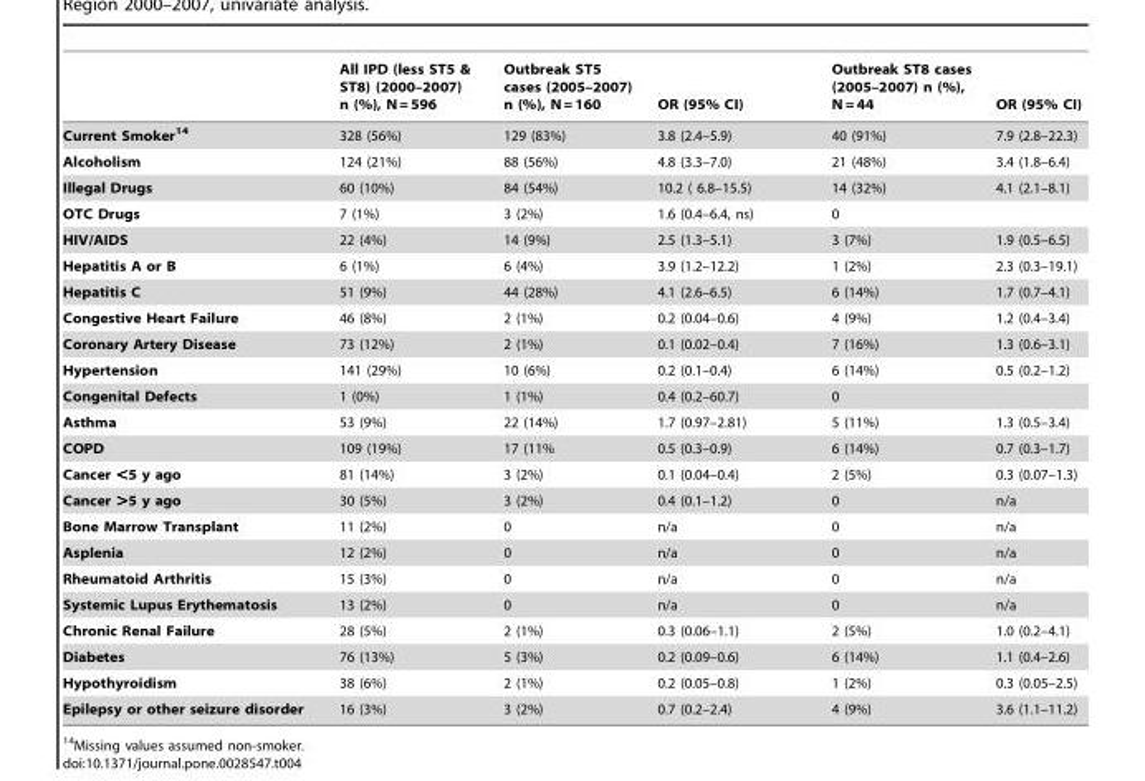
<table><thead><tr><td></td><td>All IPD (less ST5 &amp; ST8) (2000–2007) n (%), N = 596</td><td>Outbreak ST5 cases (2005–2007) n (%), N = 160</td><td>OR (95% CI)</td><td>Outbreak ST8 cases (2005–2007) n (%), N = 44</td><td>OR (95% CI)</td></tr></thead><tbody><tr><td>Current Smoker14</td><td>328 (56%)</td><td>129 (83%)</td><td>3.8 (2.4–5.9)</td><td>40 (91%)</td><td>7.9 (2.8–22.3)</td></tr><tr><td>Alcoholism</td><td>124 (21%)</td><td>88 (56%)</td><td>4.8 (3.3–7.0)</td><td>21 (48%)</td><td>3.4 (1.8–6.4)</td></tr><tr><td>Illegal Drugs</td><td>60 (10%)</td><td>84 (54%)</td><td>10.2 ( 6.8–15.5)</td><td>14 (32%)</td><td>4.1 (2.1–8.1)</td></tr><tr><td>OTC Drugs</td><td>7 (1%)</td><td>3 (2%)</td><td>1.6 (0.4–6.4, ns)</td><td>0</td><td></td></tr><tr><td>HIV/AIDS</td><td>22 (4%)</td><td>14 (9%)</td><td>2.5 (1.3–5.1)</td><td>3 (7%)</td><td>1.9 (0.5–6.5)</td></tr><tr><td>Hepatitis A or B</td><td>6 (1%)</td><td>6 (4%)</td><td>3.9 (1.2–12.2)</td><td>1 (2%)</td><td>2.3 (0.3–19.1)</td></tr><tr><td>Hepatitis C</td><td>51 (9%)</td><td>44 (28%)</td><td>4.1 (2.6–6.5)</td><td>6 (14%)</td><td>1.7 (0.7–4.1)</td></tr><tr><td>Congestive Heart Failure</td><td>46 (8%)</td><td>2 (1%)</td><td>0.2 (0.04–0.6)</td><td>4 (9%)</td><td>1.2 (0.4–3.4)</td></tr><tr><td>Coronary Artery Disease</td><td>73 (12%)</td><td>2 (1%)</td><td>0.1 (0.02–0.4)</td><td>7 (16%)</td><td>1.3 (0.6–3.1)</td></tr><tr><td>Hypertension</td><td>141 (29%)</td><td>10 (6%)</td><td>0.2 (0.1–0.4)</td><td>6 (14%)</td><td>0.5 (0.2–1.2)</td></tr><tr><td>Congenital Defects</td><td>1 (0%)</td><td>1 (1%)</td><td>0.4 (0.2–60.7)</td><td>0</td><td></td></tr><tr><td>Asthma</td><td>53 (9%)</td><td>22 (14%)</td><td>1.7 (0.97–2.81)</td><td>5 (11%)</td><td>1.3 (0.5–3.4)</td></tr><tr><td>COPD</td><td>109 (19%)</td><td>17 (11%</td><td>0.5 (0.3–0.9)</td><td>6 (14%)</td><td>0.7 (0.3–1.7)</td></tr><tr><td>Cancer &lt;5 y ago</td><td>81 (14%)</td><td>3 (2%)</td><td>0.1 (0.04–0.4)</td><td>2 (5%)</td><td>0.3 (0.07–1.3)</td></tr><tr><td>Cancer &gt;5 y ago</td><td>30 (5%)</td><td>3 (2%)</td><td>0.4 (0.1–1.2)</td><td>0</td><td>n/a</td></tr><tr><td>Bone Marrow Transplant</td><td>11 (2%)</td><td>0</td><td>n/a</td><td>0</td><td>n/a</td></tr><tr><td>Asplenia</td><td>12 (2%)</td><td>0</td><td>n/a</td><td>0</td><td>n/a</td></tr><tr><td>Rheumatoid Arthritis</td><td>15 (3%)</td><td>0</td><td>n/a</td><td>0</td><td>n/a</td></tr><tr><td>Systemic Lupus Erythematosis</td><td>13 (2%)</td><td>0</td><td>n/a</td><td>0</td><td>n/a</td></tr><tr><td>Chronic Renal Failure</td><td>28 (5%)</td><td>2 (1%)</td><td>0.3 (0.06–1.1)</td><td>2 (5%)</td><td>1.0 (0.2–4.1)</td></tr><tr><td>Diabetes</td><td>76 (13%)</td><td>5 (3%)</td><td>0.2 (0.09–0.6)</td><td>6 (14%)</td><td>1.1 (0.4–2.6)</td></tr><tr><td>Hypothyroidism</td><td>38 (6%)</td><td>2 (1%)</td><td>0.2 (0.05–0.8)</td><td>1 (2%)</td><td>0.3 (0.05–2.5)</td></tr><tr><td>Epilepsy or other seizure disorder</td><td>16 (3%)</td><td>3 (2%)</td><td>0.7 (0.2–2.4)</td><td>4 (9%)</td><td>3.6 (1.1–11.2)</td></tr></tbody></table>